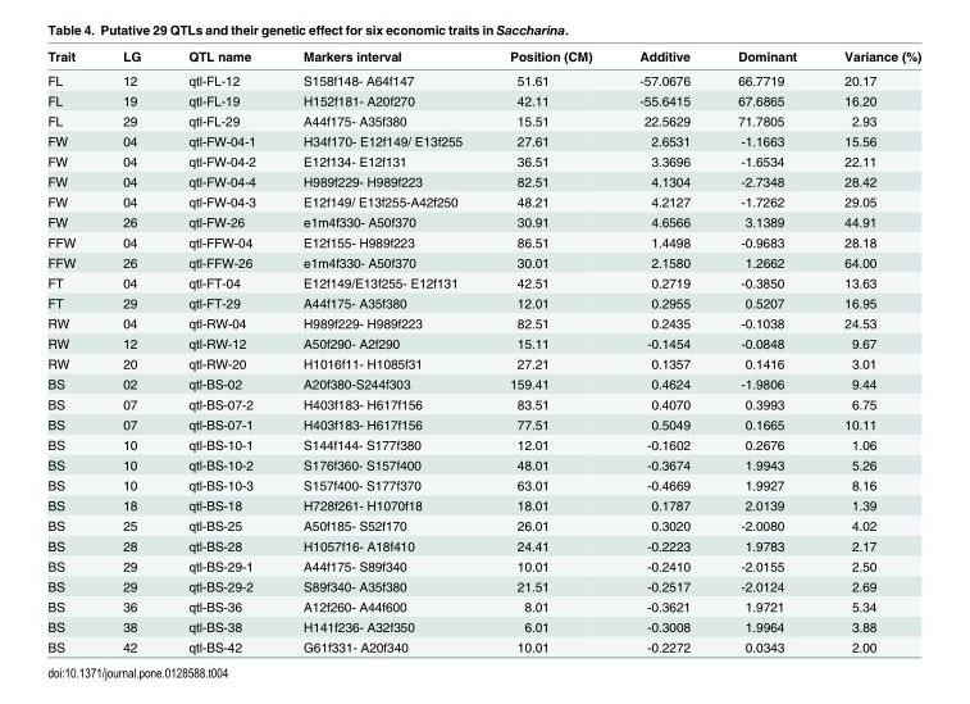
<table><thead><tr><td>Trait</td><td>LG</td><td>QTL name</td><td>Markers interval</td><td>Position (CM)</td><td>Additive</td><td>Dominant</td><td>Variance (%)</td></tr></thead><tbody><tr><td>FL</td><td>12</td><td>qtl-FL-12</td><td>S158f148- A64f147</td><td>51.61</td><td>-57.0676</td><td>66.7719</td><td>20.17</td></tr><tr><td>FL</td><td>19</td><td>qtl-FL-19</td><td>H152f181- A20f270</td><td>42.11</td><td>-55.6415</td><td>67.6865</td><td>16.20</td></tr><tr><td>FL</td><td>29</td><td>qtl-FL-29</td><td>A44f175- A35f380</td><td>15.51</td><td>22.5629</td><td>71.7805</td><td>2.93</td></tr><tr><td>FW</td><td>04</td><td>qtl-FW-04-1</td><td>H34f170- E12f149/ E13f255</td><td>27.61</td><td>2.6531</td><td>-1.1663</td><td>15.56</td></tr><tr><td>FW</td><td>04</td><td>qtl-FW-04-2</td><td>E12f134- E12f131</td><td>36.51</td><td>3.3696</td><td>-1.6534</td><td>22.11</td></tr><tr><td>FW</td><td>04</td><td>qtl-FW-04-4</td><td>H989f229- H989f223</td><td>82.51</td><td>4.1304</td><td>-2.7348</td><td>28.42</td></tr><tr><td>FW</td><td>04</td><td>qtl-FW-04-3</td><td>E12f149/ E13f255-A42f250</td><td>48.21</td><td>4.2127</td><td>-1.7262</td><td>29.05</td></tr><tr><td>FW</td><td>26</td><td>qtl-FW-26</td><td>e1m4f330- A50f370</td><td>30.91</td><td>4.6566</td><td>3.1389</td><td>44.91</td></tr><tr><td>FFW</td><td>04</td><td>qtl-FFW-04</td><td>E12f155- H989f223</td><td>86.51</td><td>1.4498</td><td>-0.9683</td><td>28.18</td></tr><tr><td>FFW</td><td>26</td><td>qtl-FFW-26</td><td>e1m4f330- A50f370</td><td>30.01</td><td>2.1580</td><td>1.2662</td><td>64.00</td></tr><tr><td>FT</td><td>04</td><td>qtl-FT-04</td><td>E12f149/E13f255- E12f131</td><td>42.51</td><td>0.2719</td><td>-0.3850</td><td>13.63</td></tr><tr><td>FT</td><td>29</td><td>qtl-FT-29</td><td>A44f175- A35f380</td><td>12.01</td><td>0.2955</td><td>0.5207</td><td>16.95</td></tr><tr><td>RW</td><td>04</td><td>qtl-RW-04</td><td>H989f229- H989f223</td><td>82.51</td><td>0.2435</td><td>-0.1038</td><td>24.53</td></tr><tr><td>RW</td><td>12</td><td>qtl-RW-12</td><td>A50f290- A2f290</td><td>15.11</td><td>-0.1454</td><td>-0.0848</td><td>9.67</td></tr><tr><td>RW</td><td>20</td><td>qtl-RW-20</td><td>H1016f11- H1085f31</td><td>27.21</td><td>0.1357</td><td>0.1416</td><td>3.01</td></tr><tr><td>BS</td><td>02</td><td>qtl-BS-02</td><td>A20f380-S244f303</td><td>159.41</td><td>0.4624</td><td>-1.9806</td><td>9.44</td></tr><tr><td>BS</td><td>07</td><td>qtl-BS-07-2</td><td>H403f183- H617f156</td><td>83.51</td><td>0.4070</td><td>0.3993</td><td>6.75</td></tr><tr><td>BS</td><td>07</td><td>qtl-BS-07-1</td><td>H403f183- H617f156</td><td>77.51</td><td>0.5049</td><td>0.1665</td><td>10.11</td></tr><tr><td>BS</td><td>10</td><td>qtl-BS-10-1</td><td>S144f144- S177f380</td><td>12.01</td><td>-0.1602</td><td>0.2676</td><td>1.06</td></tr><tr><td>BS</td><td>10</td><td>qtl-BS-10-2</td><td>S176f360- S157f400</td><td>48.01</td><td>-0.3674</td><td>1.9943</td><td>5.26</td></tr><tr><td>BS</td><td>10</td><td>qtl-BS-10-3</td><td>S157f400- S177f370</td><td>63.01</td><td>-0.4669</td><td>1.9927</td><td>8.16</td></tr><tr><td>BS</td><td>18</td><td>qtl-BS-18</td><td>H728f261- H1070f18</td><td>18.01</td><td>0.1787</td><td>2.0139</td><td>1.39</td></tr><tr><td>BS</td><td>25</td><td>qtl-BS-25</td><td>A50f185- S52f170</td><td>26.01</td><td>0.3020</td><td>-2.0080</td><td>4.02</td></tr><tr><td>BS</td><td>28</td><td>qtl-BS-28</td><td>H1057f16- A18f410</td><td>24.41</td><td>-0.2223</td><td>1.9783</td><td>2.17</td></tr><tr><td>BS</td><td>29</td><td>qtl-BS-29-1</td><td>A44f175- S89f340</td><td>10.01</td><td>-0.2410</td><td>-2.0155</td><td>2.50</td></tr><tr><td>BS</td><td>29</td><td>qtl-BS-29-2</td><td>S89f340- A35f380</td><td>21.51</td><td>-0.2517</td><td>-2.0124</td><td>2.69</td></tr><tr><td>BS</td><td>36</td><td>qtl-BS-36</td><td>A12f260- A44f600</td><td>8.01</td><td>-0.3621</td><td>1.9721</td><td>5.34</td></tr><tr><td>BS</td><td>38</td><td>qtl-BS-38</td><td>H141f236- A32f350</td><td>6.01</td><td>-0.3008</td><td>1.9964</td><td>3.88</td></tr><tr><td>BS</td><td>42</td><td>qtl-BS-42</td><td>G61f331- A20f340</td><td>10.01</td><td>-0.2272</td><td>0.0343</td><td>2.00</td></tr></tbody></table>